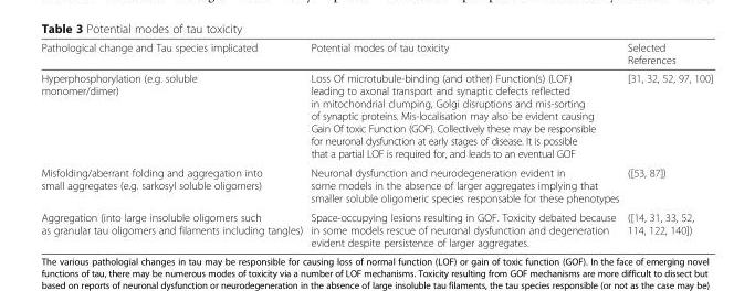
<table><thead><tr><td>Pathological change and Tau species implicated</td><td>Potential modes of tau toxicity</td><td>Selected References</td></tr></thead><tbody><tr><td>Hyperphosphorylation (e.g. soluble monomer/dimer)</td><td>Loss Of microtubule-binding (and other) Function(s) (LOF) leading to axonal transport and synaptic defects reflected in mitochondrial clumping, Golgi disruptions and mis-sorting of synaptic proteins. Mis-localisation may also be evident causing Gain Of toxic Function (GOF). Collectively these may be responsible for neuronal dysfunction at early stages of disease. It is possible that a partial LOF is required for, and leads to an eventual GOF</td><td>[31, 32, 52, 97, 100]</td></tr><tr><td>Misfolding/aberrant folding and aggregation into small aggregates (e.g. sarkosyl soluble oligomers)</td><td>Neuronal dysfunction and neurodegeneration evident in some models in the absence of larger aggregates implying that smaller soluble oligomeric species responsable for these phenotypes</td><td>([53, 87])</td></tr><tr><td>Aggregation (into large insoluble oligomers such as granular tau oligomers and filaments including tangles)</td><td>Space-occupying lesions resulting in GOF. Toxicity debated because in some models rescue of neuronal dysfunction and degeneration evident despite persistence of larger aggregates.</td><td>([14, 31, 33, 52, 114, 122, 140])</td></tr></tbody></table>